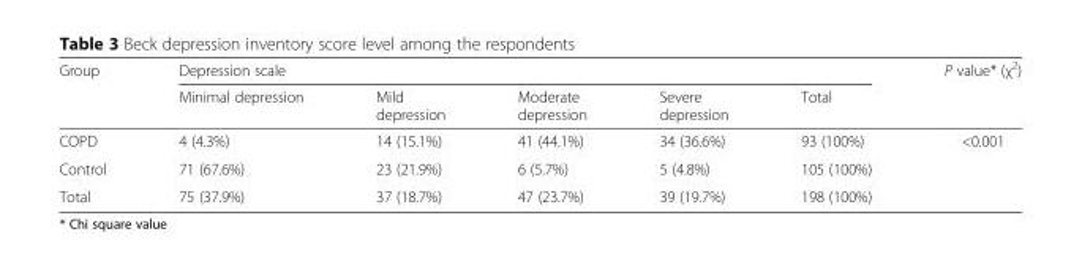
<table><thead><tr><td rowspan="2">Group</td><td colspan="5">Depression scale</td><td rowspan="2">P value* (χ<sup>2</sup>)</td></tr><tr><td>Minimal depression</td><td>Mild depression</td><td>Moderate depression</td><td>Severe depression</td><td>Total</td></tr></thead><tbody><tr><td>COPD</td><td>4 (4.3%)</td><td>14 (15.1%)</td><td>41 (44.1%)</td><td>34 (36.6%)</td><td>93 (100%)</td><td rowspan="3">&lt;0.001</td></tr><tr><td>Control</td><td>71 (67.6%)</td><td>23 (21.9%)</td><td>6 (5.7%)</td><td>5 (4.8%)</td><td>105 (100%)</td></tr><tr><td>Total</td><td>75 (37.9%)</td><td>37 (18.7%)</td><td>47 (23.7%)</td><td>39 (19.7%)</td><td>198 (100%)</td></tr></tbody></table>